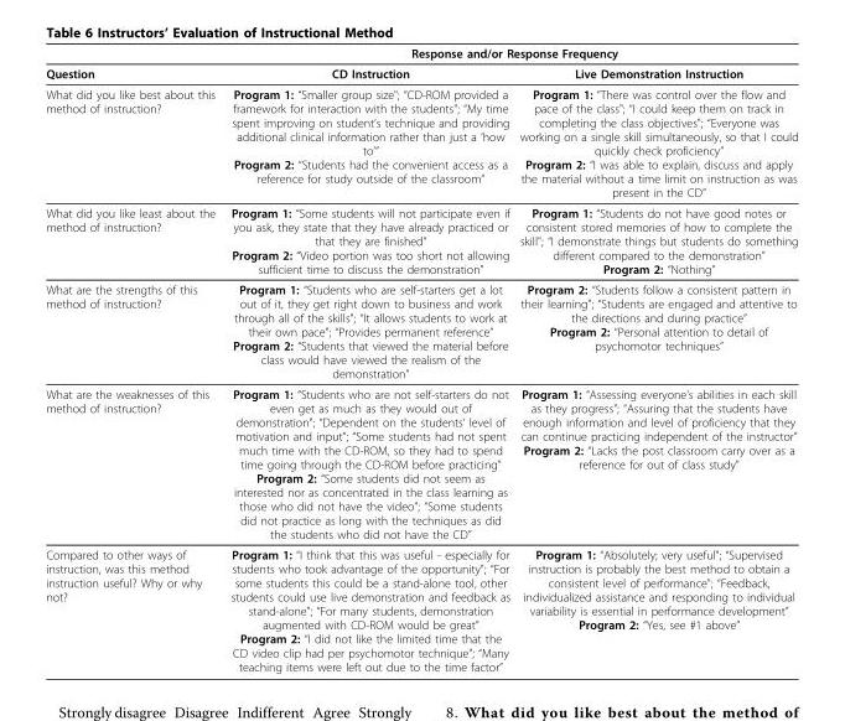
<table><thead><tr><td rowspan="2">Question</td><td colspan="2">Response and/or Response Frequency</td></tr><tr><td>CD Instruction</td><td>Live Demonstration Instruction</td></tr></thead><tbody><tr><td>What did you like best about this method of instruction?</td><td>Program 1: “Smaller group size&quot;; “CD-ROM provided a framework for interaction with the students&quot;; “My time spent improving on student’s technique and providing additional clinical information rather than just a ‘how to’” Program 2: “Students had the convenient access as a reference for study outside of the classroom”</td><td>Program 1: “There was control over the flow and pace of the class&quot;; “I could keep them on track in completing the class objectives&quot;; “Everyone was working on a single skill simultaneously, so that I could quickly check proficiency” Program 2: “I was able to explain, discuss and apply the material without a time limit on instruction as was present in the CD”</td></tr><tr><td>What did you like least about the method of instruction?</td><td>Program 1: “Some students will not participate even if you ask, they state that they have already practiced or that they are finished” Program 2: “Video portion was too short not allowing sufficient time to discuss the demonstration”</td><td>Program 1: “Students do not have good notes or consistent stored memories of how to complete the skill&quot;; “I demonstrate things but students do something different compared to the demonstration” Program 2: “Nothing”</td></tr><tr><td>What are the strengths of this method of instruction?</td><td>Program 1: “Students who are self-starters get a lot out of it, they get right down to business and work through all of the skills&quot;; “It allows students to work at their own pace&quot;; “Provides permanent reference” Program 2: “Students that viewed the material before class would have viewed the realism of the demonstration”</td><td>Program 2: “Students follow a consistent pattern in their learning&quot;; “Students are engaged and attentive to the directions and during practice” Program 2: “Personal attention to detail of psychomotor techniques”</td></tr><tr><td>What are the weaknesses of this method of instruction?</td><td>Program 1: “Students who are not self-starters do not even get as much as they would out of demonstration&quot;; “Dependent on the students’ level of motivation and input&quot;; “Some students had not spent much time with the CD-ROM, so they had to spend time going through the CD-ROM before practicing” Program 2: “Some students did not seem as interested nor as concentrated in the class learning as those who did not have the video&quot;; “Some students did not practice as long with the techniques as did the students who did not have the CD”</td><td>Program 1: “Assessing everyone’s abilities in each skill as they progress&quot;; “Assuring that the students have enough information and level of proficiency that they can continue practicing independent of the instructor” Program 2: “Lacks the post classroom carry over as a reference for out of class study”</td></tr><tr><td>Compared to other ways of instruction, was this method instruction useful? Why or why not?</td><td>Program 1: “I think that this was useful - especially for students who took advantage of the opportunity&quot;; “For some students this could be a stand-alone tool, other students could use live demonstration and feedback as stand-alone&quot;; “For many students, demonstration augmented with CD-ROM would be great” Program 2: “I did not like the limited time that the CD video clip had per psychomotor technique&quot;; “Many teaching items were left out due to the time factor”</td><td>Program 1: “Absolutely; very useful&quot;; “Supervised instruction is probably the best method to obtain a consistent level of performance&quot;; “Feedback, individualized assistance and responding to individual variability is essential in performance development” Program 2: “Yes, see #1 above”</td></tr></tbody></table>